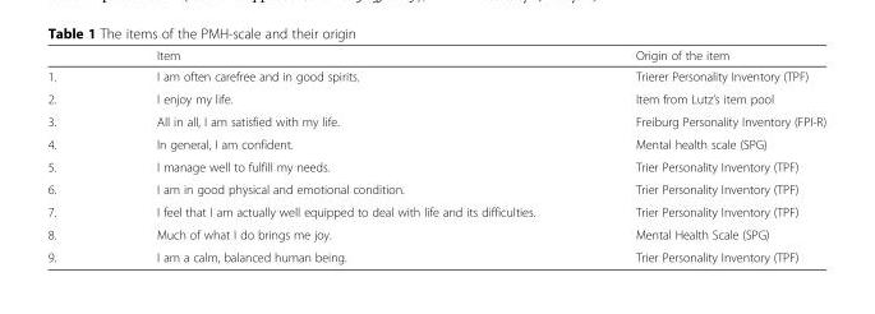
<table><thead><tr><td></td><td>Item</td><td>Origin of the item</td></tr></thead><tbody><tr><td>1.</td><td>I am often carefree and in good spirits.</td><td>Trierer Personality Inventory (TPF)</td></tr><tr><td>2.</td><td>I enjoy my life.</td><td>Item from Lutz’s item pool</td></tr><tr><td>3.</td><td>All in all, I am satisfied with my life.</td><td>Freiburg Personality Inventory (FPI-R)</td></tr><tr><td>4.</td><td>In general, I am confident.</td><td>Mental health scale (SPG)</td></tr><tr><td>5.</td><td>I manage well to fulfill my needs.</td><td>Trier Personality Inventory (TPF)</td></tr><tr><td>6.</td><td>I am in good physical and emotional condition.</td><td>Trier Personality Inventory (TPF)</td></tr><tr><td>7.</td><td>I feel that I am actually well equipped to deal with life and its difficulties.</td><td>Trier Personality Inventory (TPF)</td></tr><tr><td>8.</td><td>Much of what I do brings me joy.</td><td>Mental Health Scale (SPG)</td></tr><tr><td>9.</td><td>I am a calm, balanced human being.</td><td>Trier Personality Inventory (TPF)</td></tr></tbody></table>